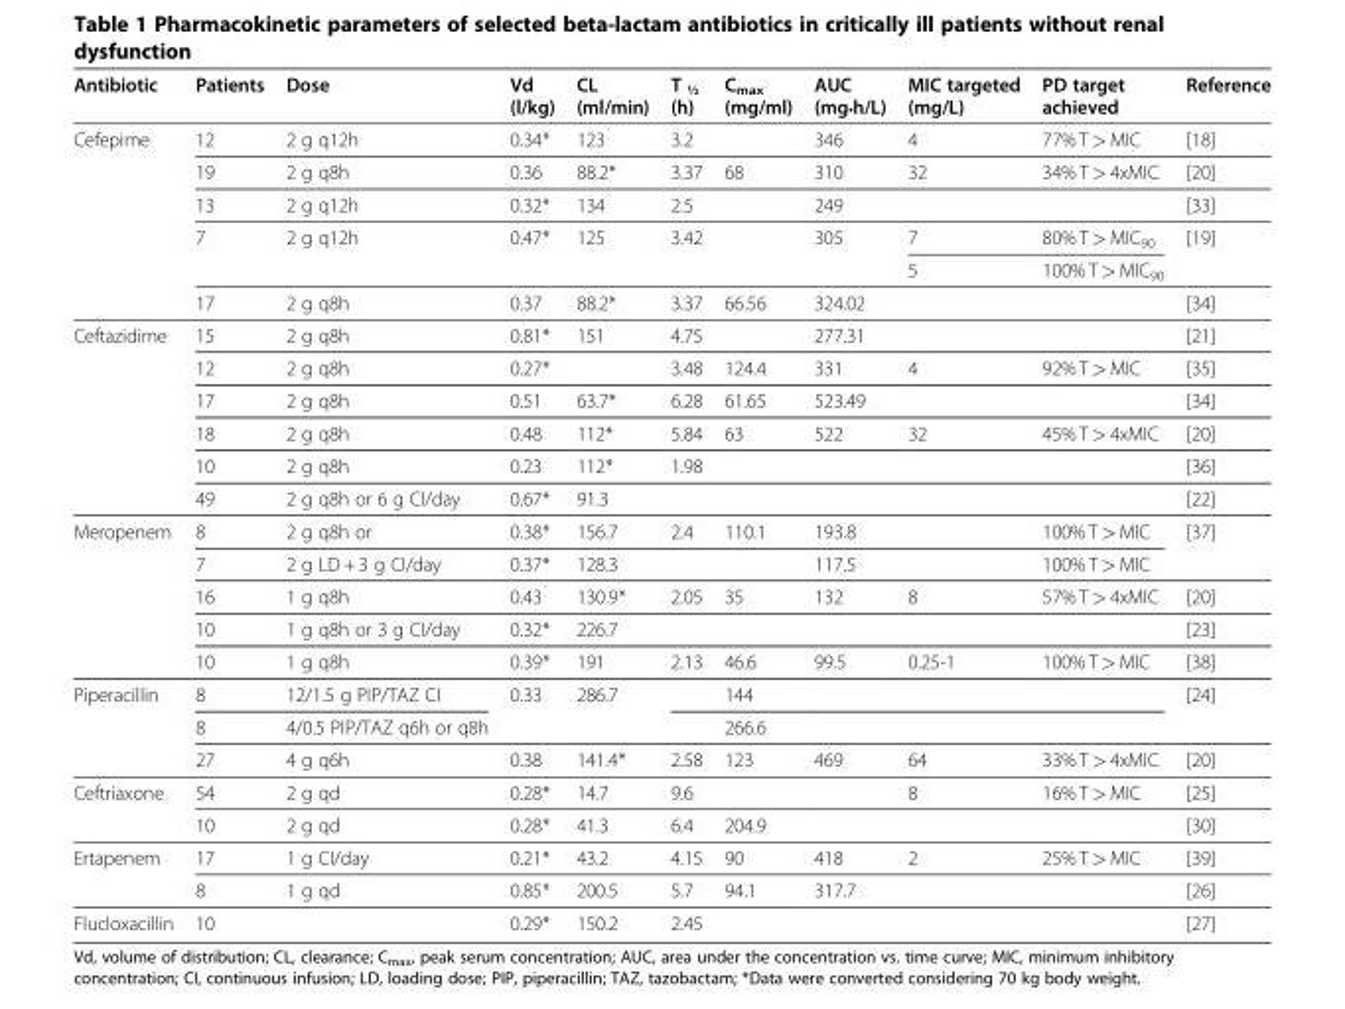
<table><thead><tr><td>Antibiotic</td><td>Patients</td><td>Dose</td><td>Vd (l/kg)</td><td>CL (ml/min)</td><td>T <sub>½</sub> (h)</td><td>C<sub>max</sub> (mg/ml)</td><td>AUC (mg•h/L)</td><td>MIC targeted (mg/L)</td><td>PD target achieved</td><td>Reference</td></tr></thead><tbody><tr><td rowspan="6">Cefepime</td><td>12</td><td>2 g q12h</td><td>0.34*</td><td>123</td><td>3.2</td><td></td><td>346</td><td>4</td><td>77% T &gt; MIC</td><td>[18]</td></tr><tr><td>19</td><td>2 g q8h</td><td>0.36</td><td>88.2*</td><td>3.37</td><td>68</td><td>310</td><td>32</td><td>34% T &gt; 4xMIC</td><td>[20]</td></tr><tr><td>13</td><td>2 g q12h</td><td>0.32*</td><td>134</td><td>2.5</td><td></td><td>249</td><td></td><td></td><td>[33]</td></tr><tr><td rowspan="2">7</td><td rowspan="2">2 g q12h</td><td rowspan="2">0.47*</td><td rowspan="2">125</td><td rowspan="2">3.42</td><td rowspan="2"></td><td rowspan="2">305</td><td>7</td><td>80% T &gt; MIC<sub>90</sub></td><td rowspan="2">[19]</td></tr><tr><td>5</td><td>100% T &gt; MIC<sub>90</sub></td></tr><tr><td>17</td><td>2 g q8h</td><td>0.37</td><td>88.2*</td><td>3.37</td><td>66.56</td><td>324.02</td><td></td><td></td><td>[34]</td></tr><tr><td rowspan="6">Ceftazidime</td><td>15</td><td>2 g q8h</td><td>0.81*</td><td>151</td><td>4.75</td><td></td><td>277.31</td><td></td><td></td><td>[21]</td></tr><tr><td>12</td><td>2 g q8h</td><td>0.27*</td><td></td><td>3.48</td><td>124.4</td><td>331</td><td>4</td><td>92% T &gt; MIC</td><td>[35]</td></tr><tr><td>17</td><td>2 g q8h</td><td>0.51</td><td>63.7*</td><td>6.28</td><td>61.65</td><td>523.49</td><td></td><td></td><td>[34]</td></tr><tr><td>18</td><td>2 g q8h</td><td>0.48</td><td>112*</td><td>5.84</td><td>63</td><td>522</td><td>32</td><td>45% T &gt; 4xMIC</td><td>[20]</td></tr><tr><td>10</td><td>2 g q8h</td><td>0.23</td><td>112*</td><td>1.98</td><td></td><td></td><td></td><td></td><td>[36]</td></tr><tr><td>49</td><td>2 g q8h or 6 g CI/day</td><td>0.67*</td><td>91.3</td><td></td><td></td><td></td><td></td><td></td><td>[22]</td></tr><tr><td rowspan="5">Meropenem</td><td>8</td><td>2 g q8h or</td><td>0.38*</td><td>156.7</td><td>2.4</td><td>110.1</td><td>193.8</td><td></td><td>100% T &gt; MIC</td><td rowspan="2">[37]</td></tr><tr><td>7</td><td>2 g LD + 3 g CI/day</td><td>0.37*</td><td>128.3</td><td></td><td></td><td>117.5</td><td></td><td>100% T &gt; MIC</td></tr><tr><td>16</td><td>1 g q8h</td><td>0.43</td><td>130.9*</td><td>2.05</td><td>35</td><td>132</td><td>8</td><td>57% T &gt; 4xMIC</td><td>[20]</td></tr><tr><td>10</td><td>1 g q8h or 3 g CI/day</td><td>0.32*</td><td>226.7</td><td></td><td></td><td></td><td></td><td></td><td>[23]</td></tr><tr><td>10</td><td>1 g q8h</td><td>0.39*</td><td>191</td><td>2.13</td><td>46.6</td><td>99.5</td><td>0.25-1</td><td>100% T &gt; MIC</td><td>[38]</td></tr><tr><td rowspan="3">Piperacillin</td><td>8</td><td>12/1.5 g PIP/TAZ CI</td><td rowspan="2">0.33</td><td rowspan="2">286.7</td><td></td><td>144</td><td></td><td></td><td></td><td rowspan="2">[24]</td></tr><tr><td>8</td><td>4/0.5 PIP/TAZ q6h or q8h</td><td></td><td>266.6</td><td></td><td></td><td></td></tr><tr><td>27</td><td>4 g q6h</td><td>0.38</td><td>141.4*</td><td>2.58</td><td>123</td><td>469</td><td>64</td><td>33% T &gt; 4xMIC</td><td>[20]</td></tr><tr><td rowspan="2">Ceftriaxone</td><td>54</td><td>2 g qd</td><td>0.28*</td><td>14.7</td><td>9.6</td><td></td><td></td><td>8</td><td>16% T &gt; MIC</td><td>[25]</td></tr><tr><td>10</td><td>2 g qd</td><td>0.28*</td><td>41.3</td><td>6.4</td><td>204.9</td><td></td><td></td><td></td><td>[30]</td></tr><tr><td rowspan="2">Ertapenem</td><td>17</td><td>1 g CI/day</td><td>0.21*</td><td>43.2</td><td>4.15</td><td>90</td><td>418</td><td>2</td><td>25% T &gt; MIC</td><td>[39]</td></tr><tr><td>8</td><td>1 g qd</td><td>0.85*</td><td>200.5</td><td>5.7</td><td>94.1</td><td>317.7</td><td></td><td></td><td>[26]</td></tr><tr><td>Flucloxacillin</td><td>10</td><td></td><td>0.29*</td><td>150.2</td><td>2.45</td><td></td><td></td><td></td><td></td><td>[27]</td></tr></tbody></table>